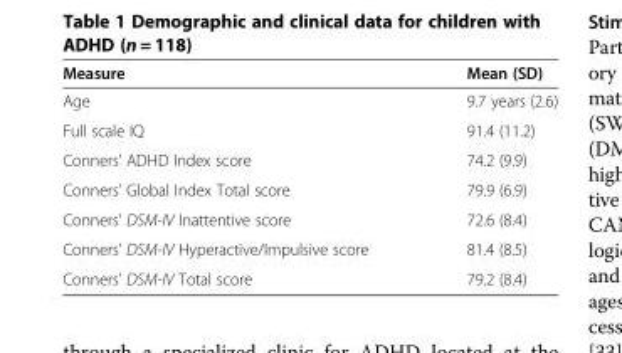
<table><thead><tr><td>Measure</td><td>Mean (SD)</td></tr></thead><tbody><tr><td>Age</td><td>9.7 years (2.6)</td></tr><tr><td>Full scale IQ</td><td>91.4 (11.2)</td></tr><tr><td>Conners’ ADHD Index score</td><td>74.2 (9.9)</td></tr><tr><td>Conners’ Global Index Total score</td><td>79.9 (6.9)</td></tr><tr><td>Conners’ DSM-IV Inattentive score</td><td>72.6 (8.4)</td></tr><tr><td>Conners’ DSM-IV Hyperactive/Impulsive score</td><td>81.4 (8.5)</td></tr><tr><td>Conners’ DSM-IV Total score</td><td>79.2 (8.4)</td></tr></tbody></table>